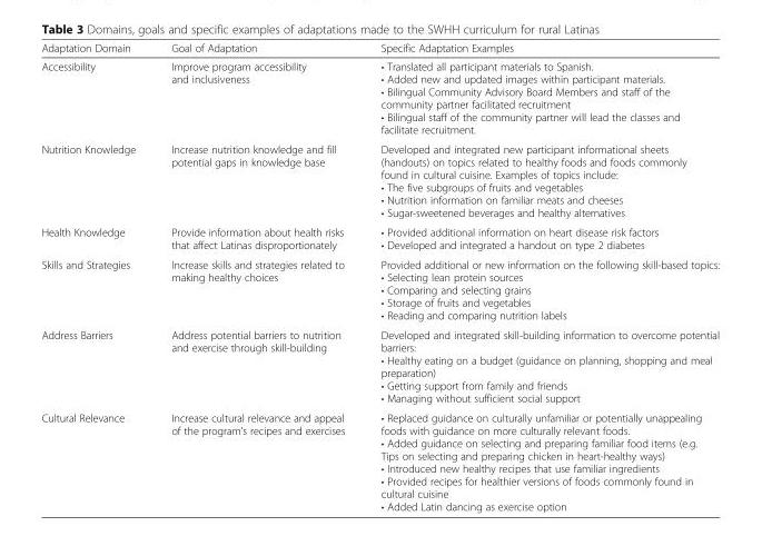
<table><thead><tr><td>Adaptation Domain</td><td>Goal of Adaptation</td><td>Specific Adaptation Examples</td></tr></thead><tbody><tr><td>Accessibility</td><td>Improve program accessibility and inclusiveness</td><td>• Translated all participant materials to Spanish. • Added new and updated images within participant materials. • Bilingual Community Advisory Board Members and staff of the community partner facilitated recruitment • Bilingual staff of the community partner will lead the classes and facilitate recruitment.</td></tr><tr><td>Nutrition Knowledge</td><td>Increase nutrition knowledge and fill potential gaps in knowledge base</td><td>Developed and integrated new participant informational sheets (handouts) on topics related to healthy foods and foods commonly found in cultural cuisine. Examples of topics include: • The five subgroups of fruits and vegetables • Nutrition information on familiar meats and cheeses • Sugar-sweetened beverages and healthy alternatives</td></tr><tr><td>Health Knowledge</td><td>Provide information about health risks that affect Latinas disproportionately</td><td>• Provided additional information on heart disease risk factors • Developed and integrated a handout on type 2 diabetes</td></tr><tr><td>Skills and Strategies</td><td>Increase skills and strategies related to making healthy choices</td><td>Provided additional or new information on the following skill-based topics: • Selecting lean protein sources • Comparing and selecting grains • Storage of fruits and vegetables • Reading and comparing nutrition labels</td></tr><tr><td>Address Barriers</td><td>Address potential barriers to nutrition and exercise through skill-building</td><td>Developed and integrated skill-building information to overcome potential barriers: • Healthy eating on a budget (guidance on planning, shopping and meal preparation) • Getting support from family and friends • Managing without sufficient social support</td></tr><tr><td>Cultural Relevance</td><td>Increase cultural relevance and appeal of the program’s recipes and exercises</td><td>• Replaced guidance on culturally unfamiliar or potentially unappealing foods with guidance on more culturally relevant foods. • Added guidance on selecting and preparing familiar food items (e.g. Tips on selecting and preparing chicken in heart-healthy ways) • Introduced new healthy recipes that use familiar ingredients • Provided recipes for healthier versions of foods commonly found in cultural cuisine • Added Latin dancing as exercise option</td></tr></tbody></table>